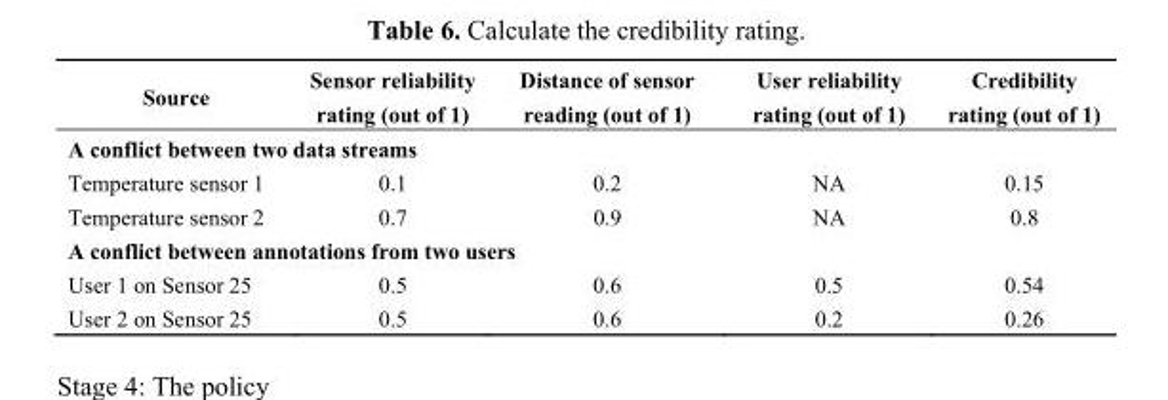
<table><thead><tr><td>Source</td><td>Sensor reliability rating (out of 1)</td><td>Distance of sensor reading (out of 1)</td><td>User reliability rating (out of 1)</td><td>Credibility rating (out of 1)</td></tr></thead><tbody><tr><td colspan="5">A conflict between two data streams</td></tr><tr><td>Temperature sensor 1</td><td>0.1</td><td>0.2</td><td>NA</td><td>0.15</td></tr><tr><td>Temperature sensor 2</td><td>0.7</td><td>0.9</td><td>NA</td><td>0.8</td></tr><tr><td colspan="5">A conflict between annotations from two users</td></tr><tr><td>User 1 on Sensor 25</td><td>0.5</td><td>0.6</td><td>0.5</td><td>0.54</td></tr><tr><td>User 2 on Sensor 25</td><td>0.5</td><td>0.6</td><td>0.2</td><td>0.26</td></tr></tbody></table>